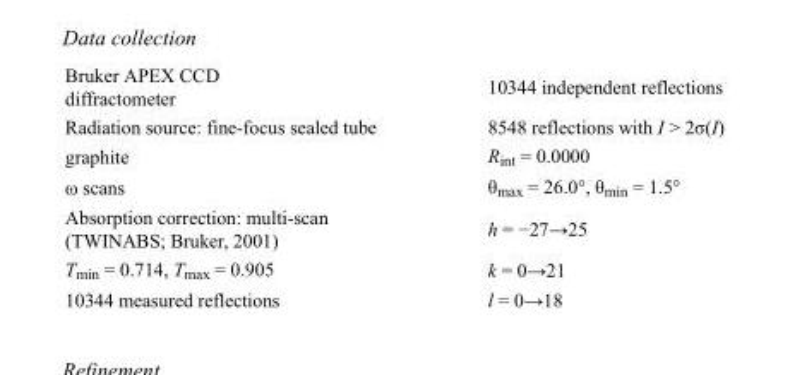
<table><tbody><tr><td>Bruker APEX CCD diffractometer</td><td>10344 independent reflections</td></tr><tr><td>Radiation source: fine-focus sealed tube</td><td>8548 reflections with I &gt; 2σ(I)</td></tr><tr><td>graphite</td><td>R<sub>int</sub> = 0.0000</td></tr><tr><td>ω scans</td><td>θ<sub>max</sub> = 26.0°, θ<sub>min</sub> = 1.5°</td></tr><tr><td>Absorption correction: multi-scan (TWINABS; Bruker, 2001)</td><td>h = −27→25</td></tr><tr><td>T<sub>min</sub> = 0.714, T<sub>max</sub> = 0.905</td><td>k = 0→21</td></tr><tr><td>10344 measured reflections</td><td>l = 0→18</td></tr></tbody></table>